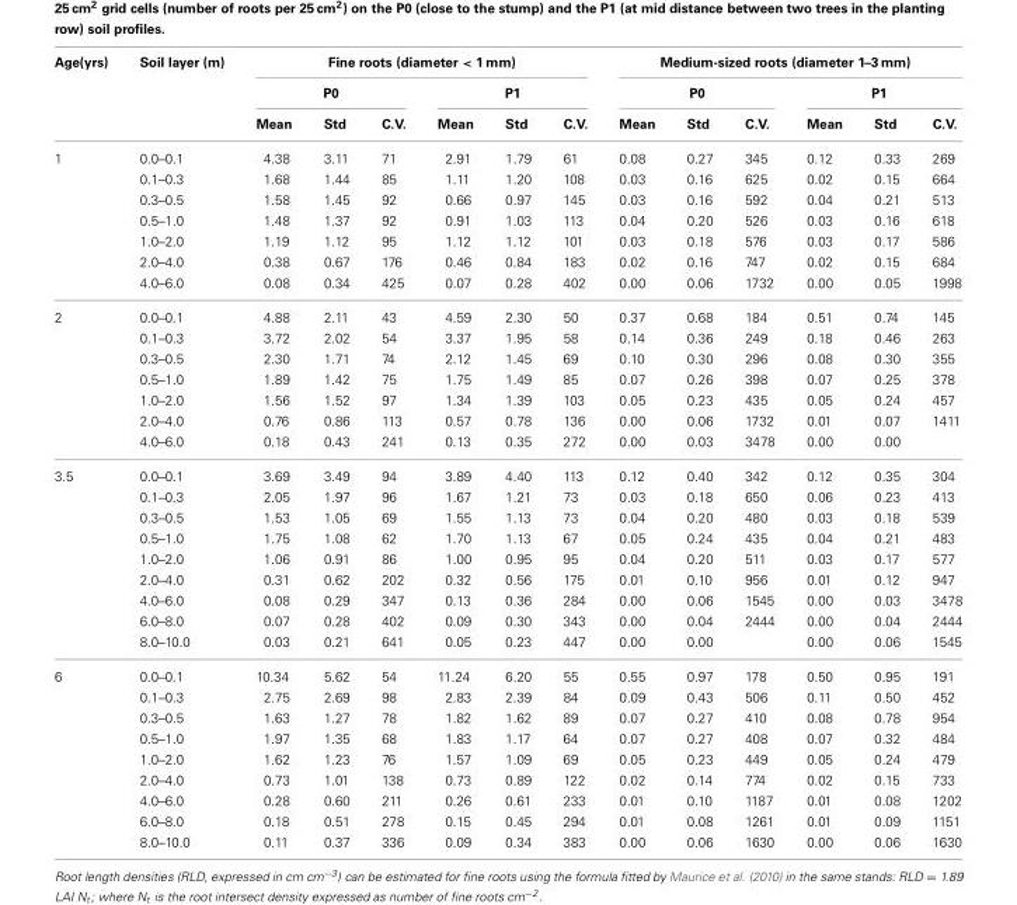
<table><thead><tr><td rowspan="3">Age(yrs)</td><td rowspan="3">Soil layer (m)</td><td colspan="6">Fine roots (diameter &lt; 1 mm)</td><td colspan="6">Medium-sized roots (diameter 1–3 mm)</td></tr><tr><td colspan="3">P0</td><td colspan="3">P1</td><td colspan="3">P0</td><td colspan="3">P1</td></tr><tr><td>Mean</td><td>Std</td><td>C.V.</td><td>Mean</td><td>Std</td><td>C.V.</td><td>Mean</td><td>Std</td><td>C.V.</td><td>Mean</td><td>Std</td><td>C.V.</td></tr></thead><tbody><tr><td rowspan="7">1</td><td>0.0–0.1</td><td>4.38</td><td>3.11</td><td>71</td><td>2.91</td><td>1.79</td><td>61</td><td>0.08</td><td>0.27</td><td>345</td><td>0.12</td><td>0.33</td><td>269</td></tr><tr><td>0.1–0.3</td><td>1.68</td><td>1.44</td><td>85</td><td>1.11</td><td>1.20</td><td>108</td><td>0.03</td><td>0.16</td><td>625</td><td>0.02</td><td>0.15</td><td>664</td></tr><tr><td>0.3–0.5</td><td>1.58</td><td>1.45</td><td>92</td><td>0.66</td><td>0.97</td><td>145</td><td>0.03</td><td>0.16</td><td>592</td><td>0.04</td><td>0.21</td><td>513</td></tr><tr><td>0.5–1.0</td><td>1.48</td><td>1.37</td><td>92</td><td>0.91</td><td>1.03</td><td>113</td><td>0.04</td><td>0.20</td><td>526</td><td>0.03</td><td>0.16</td><td>618</td></tr><tr><td>1.0–2.0</td><td>1.19</td><td>1.12</td><td>95</td><td>1.12</td><td>1.12</td><td>101</td><td>0.03</td><td>0.18</td><td>576</td><td>0.03</td><td>0.17</td><td>586</td></tr><tr><td>2.0–4.0</td><td>0.38</td><td>0.67</td><td>176</td><td>0.46</td><td>0.84</td><td>183</td><td>0.02</td><td>0.16</td><td>747</td><td>0.02</td><td>0.15</td><td>684</td></tr><tr><td>4.0–6.0</td><td>0.08</td><td>0.34</td><td>425</td><td>0.07</td><td>0.28</td><td>402</td><td>0.00</td><td>0.06</td><td>1732</td><td>0.00</td><td>0.05</td><td>1998</td></tr><tr><td rowspan="7">2</td><td>0.0–0.1</td><td>4.88</td><td>2.11</td><td>43</td><td>4.59</td><td>2.30</td><td>50</td><td>0.37</td><td>0.68</td><td>184</td><td>0.51</td><td>0.74</td><td>145</td></tr><tr><td>0.1–0.3</td><td>3.72</td><td>2.02</td><td>54</td><td>3.37</td><td>1.95</td><td>58</td><td>0.14</td><td>0.36</td><td>249</td><td>0.18</td><td>0.46</td><td>263</td></tr><tr><td>0.3–0.5</td><td>2.30</td><td>1.71</td><td>74</td><td>2.12</td><td>1.45</td><td>69</td><td>0.10</td><td>0.30</td><td>296</td><td>0.08</td><td>0.30</td><td>355</td></tr><tr><td>0.5–1.0</td><td>1.89</td><td>1.42</td><td>75</td><td>1.75</td><td>1.49</td><td>85</td><td>0.07</td><td>0.26</td><td>398</td><td>0.07</td><td>0.25</td><td>378</td></tr><tr><td>1.0–2.0</td><td>1.56</td><td>1.52</td><td>97</td><td>1.34</td><td>1.39</td><td>103</td><td>0.05</td><td>0.23</td><td>435</td><td>0.05</td><td>0.24</td><td>457</td></tr><tr><td>2.0–4.0</td><td>0.76</td><td>0.86</td><td>113</td><td>0.57</td><td>0.78</td><td>136</td><td>0.00</td><td>0.06</td><td>1732</td><td>0.01</td><td>0.07</td><td>1411</td></tr><tr><td>4.0–6.0</td><td>0.18</td><td>0.43</td><td>241</td><td>0.13</td><td>0.35</td><td>272</td><td>0.00</td><td>0.03</td><td>3478</td><td>0.00</td><td>0.00</td><td></td></tr><tr><td rowspan="9">3.5</td><td>0.0–0.1</td><td>3.69</td><td>3.49</td><td>94</td><td>3.89</td><td>4.40</td><td>113</td><td>0.12</td><td>0.40</td><td>342</td><td>0.12</td><td>0.35</td><td>304</td></tr><tr><td>0.1–0.3</td><td>2.05</td><td>1.97</td><td>96</td><td>1.67</td><td>1.21</td><td>73</td><td>0.03</td><td>0.18</td><td>650</td><td>0.06</td><td>0.23</td><td>413</td></tr><tr><td>0.3–0.5</td><td>1.53</td><td>1.05</td><td>69</td><td>1.55</td><td>1.13</td><td>73</td><td>0.04</td><td>0.20</td><td>480</td><td>0.03</td><td>0.18</td><td>539</td></tr><tr><td>0.5–1.0</td><td>1.75</td><td>1.08</td><td>62</td><td>1.70</td><td>1.13</td><td>67</td><td>0.05</td><td>0.24</td><td>435</td><td>0.04</td><td>0.21</td><td>483</td></tr><tr><td>1.0–2.0</td><td>1.06</td><td>0.91</td><td>86</td><td>1.00</td><td>0.95</td><td>95</td><td>0.04</td><td>0.20</td><td>511</td><td>0.03</td><td>0.17</td><td>577</td></tr><tr><td>2.0–4.0</td><td>0.31</td><td>0.62</td><td>202</td><td>0.32</td><td>0.56</td><td>175</td><td>0.01</td><td>0.10</td><td>956</td><td>0.01</td><td>0.12</td><td>947</td></tr><tr><td>4.0–6.0</td><td>0.08</td><td>0.29</td><td>347</td><td>0.13</td><td>0.36</td><td>284</td><td>0.00</td><td>0.06</td><td>1545</td><td>0.00</td><td>0.03</td><td>3478</td></tr><tr><td>6.0–8.0</td><td>0.07</td><td>0.28</td><td>402</td><td>0.09</td><td>0.30</td><td>343</td><td>0.00</td><td>0.04</td><td>2444</td><td>0.00</td><td>0.04</td><td>2444</td></tr><tr><td>8.0–10.0</td><td>0.03</td><td>0.21</td><td>641</td><td>0.05</td><td>0.23</td><td>447</td><td>0.00</td><td>0.00</td><td></td><td>0.00</td><td>0.06</td><td>1545</td></tr><tr><td rowspan="9">6</td><td>0.0–0.1</td><td>10.34</td><td>5.62</td><td>54</td><td>11.24</td><td>6.20</td><td>55</td><td>0.55</td><td>0.97</td><td>178</td><td>0.50</td><td>0.95</td><td>191</td></tr><tr><td>0.1–0.3</td><td>2.75</td><td>2.69</td><td>98</td><td>2.83</td><td>2.39</td><td>84</td><td>0.09</td><td>0.43</td><td>506</td><td>0.11</td><td>0.50</td><td>452</td></tr><tr><td>0.3–0.5</td><td>1.63</td><td>1.27</td><td>78</td><td>1.82</td><td>1.62</td><td>89</td><td>0.07</td><td>0.27</td><td>410</td><td>0.08</td><td>0.78</td><td>954</td></tr><tr><td>0.5–1.0</td><td>1.97</td><td>1.35</td><td>68</td><td>1.83</td><td>1.17</td><td>64</td><td>0.07</td><td>0.27</td><td>408</td><td>0.07</td><td>0.32</td><td>484</td></tr><tr><td>1.0–2.0</td><td>1.62</td><td>1.23</td><td>76</td><td>1.57</td><td>1.09</td><td>69</td><td>0.05</td><td>0.23</td><td>449</td><td>0.05</td><td>0.24</td><td>479</td></tr><tr><td>2.0–4.0</td><td>0.73</td><td>1.01</td><td>138</td><td>0.73</td><td>0.89</td><td>122</td><td>0.02</td><td>0.14</td><td>774</td><td>0.02</td><td>0.15</td><td>733</td></tr><tr><td>4.0–6.0</td><td>0.28</td><td>0.60</td><td>211</td><td>0.26</td><td>0.61</td><td>233</td><td>0.01</td><td>0.10</td><td>1187</td><td>0.01</td><td>0.08</td><td>1202</td></tr><tr><td>6.0–8.0</td><td>0.18</td><td>0.51</td><td>278</td><td>0.15</td><td>0.45</td><td>294</td><td>0.01</td><td>0.08</td><td>1261</td><td>0.01</td><td>0.09</td><td>1151</td></tr><tr><td>8.0–10.0</td><td>0.11</td><td>0.37</td><td>336</td><td>0.09</td><td>0.34</td><td>383</td><td>0.00</td><td>0.06</td><td>1630</td><td>0.00</td><td>0.06</td><td>1630</td></tr></tbody></table>